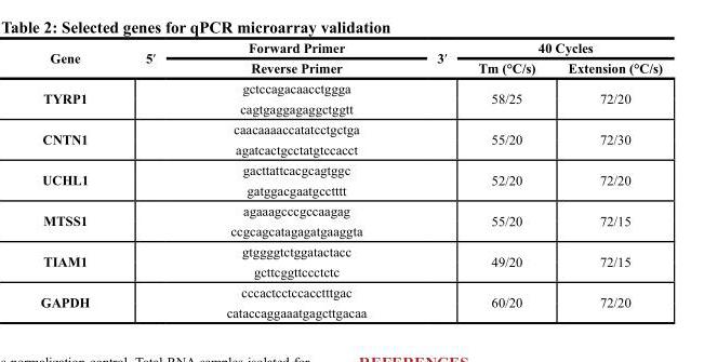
<table><thead><tr><td rowspan="2">Gene</td><td rowspan="2">5′</td><td rowspan="2">Forward Primer Reverse Primer</td><td rowspan="2">3′</td><td colspan="2">40 Cycles</td></tr><tr><td>Tm (°C/s)</td><td>extension (°C/s)</td></tr></thead><tbody><tr><td>TYRP1</td><td colspan="3">gctccagacaacctggga cagtgaggagaggctggtt</td><td>58/25</td><td>72/20</td></tr><tr><td>CNTN1</td><td colspan="3">caacaaaaccatatcctgctga agatcactgcctatgtccacct</td><td>55/20</td><td>72/30</td></tr><tr><td>UCHL1</td><td colspan="3">gacttattcacgcagtggc gatggacgaatgcctttt</td><td>52/20</td><td>72/20</td></tr><tr><td>MTSS1</td><td colspan="3">agaaagcccgccaagag ccgcagcatagagatgaaggta</td><td>55/20</td><td>72/15</td></tr><tr><td>TIAM1</td><td colspan="3">gtggggtctggatactacc gcttcggttccctctc</td><td>49/20</td><td>72/15</td></tr><tr><td>GAPDH</td><td colspan="3">cccactcctccacctttgac cataccaggaaatgagcttgacaa</td><td>60/20</td><td>72/20</td></tr></tbody></table>